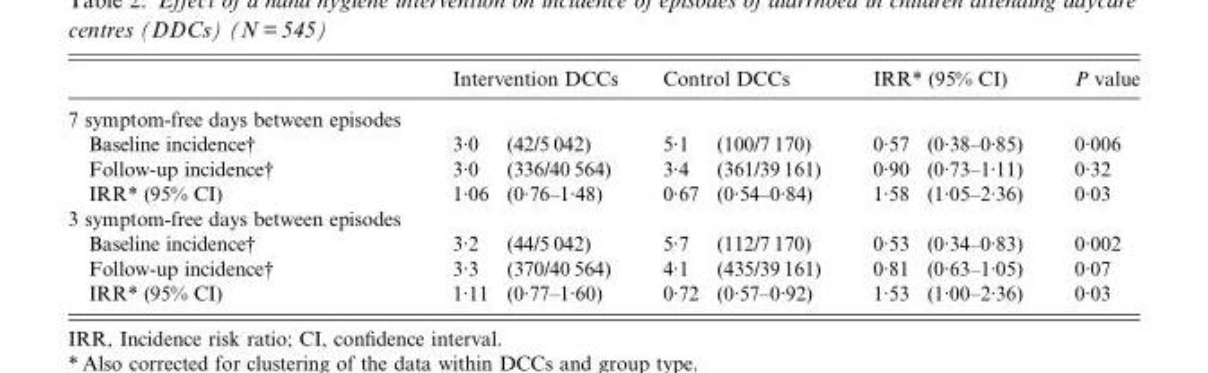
<table><thead><tr><td rowspan="2">7 symptom-free days between episodes</td><td colspan="2">Intervention DCCs</td><td colspan="2">Control DCCs</td><td colspan="2">IRR* (95% CI)</td><td rowspan="2">P value</td></tr><tr><td></td><td></td><td></td><td></td><td></td><td></td></tr></thead><tbody><tr><td>Baseline incidence†</td><td>3·0</td><td>(42/5 042)</td><td>5·1</td><td>(100/7 170)</td><td>0·57</td><td>(0·38–0·85)</td><td>0·006</td></tr><tr><td>Follow-up incidence†</td><td>3·0</td><td>(336/40 564)</td><td>3·4</td><td>(361/39 161)</td><td>0·90</td><td>(0·73–1·11)</td><td>0·32</td></tr><tr><td>IRR* (95% CI)</td><td>1·06</td><td>(0·76–1·48)</td><td>0·67</td><td>(0·54–0·84)</td><td>1·58</td><td>(1·05–2·36)</td><td>0·03</td></tr><tr><td colspan="8">3 symptom-free days between episodes</td></tr><tr><td>Baseline incidence†</td><td>3·2</td><td>(44/5 042)</td><td>5·7</td><td>(112/7 170)</td><td>0·53</td><td>(0·34–0·83)</td><td>0·002</td></tr><tr><td>Follow-up incidence†</td><td>3·3</td><td>(370/40 564)</td><td>4·1</td><td>(435/39 161)</td><td>0·81</td><td>(0·63–1·05)</td><td>0·07</td></tr><tr><td>IRR* (95% CI)</td><td>1·11</td><td>(0·77–1·60)</td><td>0·72</td><td>(0·57–0·92)</td><td>1·53</td><td>(1·00–2·36)</td><td>0·03</td></tr></tbody></table>